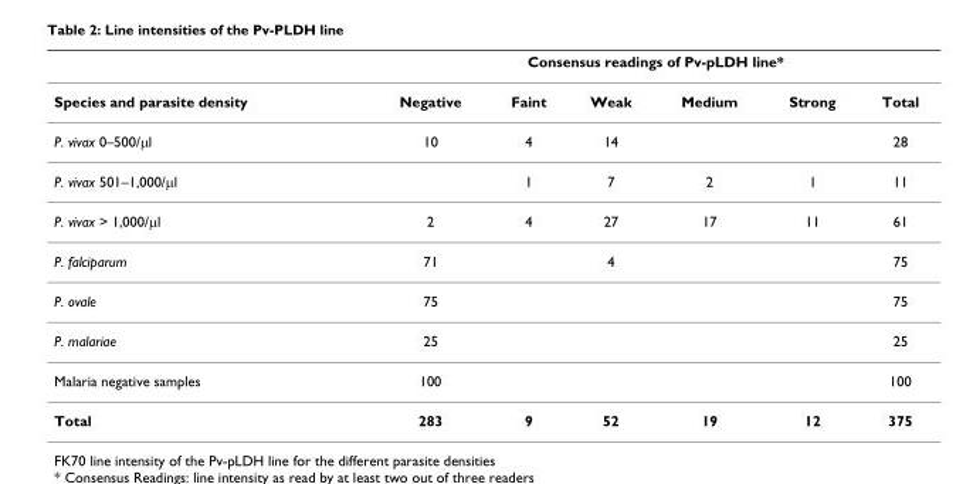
<table><thead><tr><td rowspan="2">Species and parasite density</td><td colspan="6">Consensus readings of Pv-pLDH line*</td></tr><tr><td>Negative</td><td>Faint</td><td>Weak</td><td>Medium</td><td>Strong</td><td>Total</td></tr></thead><tbody><tr><td>P. vivax 0–500/μl</td><td>10</td><td>4</td><td>14</td><td></td><td></td><td>28</td></tr><tr><td>P. vivax 501–1,000/μl</td><td></td><td>1</td><td>7</td><td>2</td><td>1</td><td>11</td></tr><tr><td>P. vivax &gt; 1,000/μl</td><td>2</td><td>4</td><td>27</td><td>17</td><td>11</td><td>61</td></tr><tr><td>P. falciparum</td><td>71</td><td></td><td>4</td><td></td><td></td><td>75</td></tr><tr><td>P. ovale</td><td>75</td><td></td><td></td><td></td><td></td><td>75</td></tr><tr><td>P. malariae</td><td>25</td><td></td><td></td><td></td><td></td><td>25</td></tr><tr><td>Malaria negative samples</td><td>100</td><td></td><td></td><td></td><td></td><td>100</td></tr><tr><td>Total</td><td>283</td><td>9</td><td>52</td><td>19</td><td>12</td><td>375</td></tr></tbody></table>